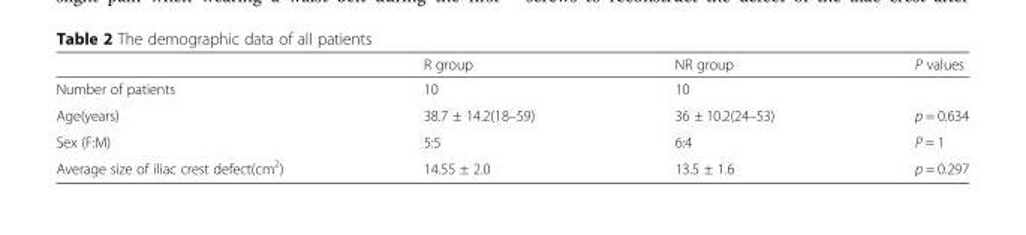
<table><thead><tr><td></td><td>R group</td><td>NR group</td><td>P values</td></tr></thead><tbody><tr><td>Number of patients</td><td>10</td><td>10</td><td></td></tr><tr><td>Age(years)</td><td>38.7 ± 14.2(18–59)</td><td>36 ± 10.2(24–53)</td><td>p = 0.634</td></tr><tr><td>Sex (F:M)</td><td>5:5</td><td>6:4</td><td>P = 1</td></tr><tr><td>Average size of iliac crest defect(cm<sup>2</sup>)</td><td>14.55 ± 2.0</td><td>13.5 ± 1.6</td><td>p = 0.297</td></tr></tbody></table>